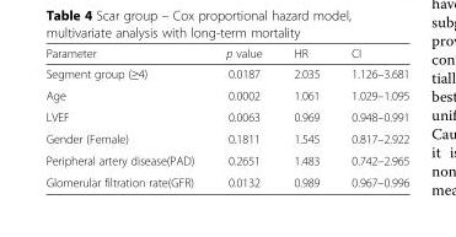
<table><thead><tr><td>Parameter</td><td>p value</td><td>HR</td><td>CI</td></tr></thead><tbody><tr><td>Segment group (≥4)</td><td>0.0187</td><td>2.035</td><td>1.126–3.681</td></tr><tr><td>Age</td><td>0.0002</td><td>1.061</td><td>1.029–1.095</td></tr><tr><td>LVEF</td><td>0.0063</td><td>0.969</td><td>0.948–0.991</td></tr><tr><td>Gender (Female)</td><td>0.1811</td><td>1.545</td><td>0.817–2.922</td></tr><tr><td>Peripheral artery disease(PAD)</td><td>0.2651</td><td>1.483</td><td>0.742–2.965</td></tr><tr><td>Glomerular filtration rate(GFR)</td><td>0.0132</td><td>0.989</td><td>0.967–0.996</td></tr></tbody></table>